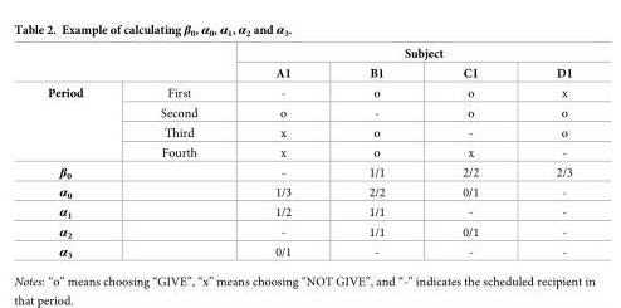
<table><thead><tr><td rowspan="2"></td><td rowspan="2"></td><td colspan="4">Subject</td></tr><tr><td>A1</td><td>B1</td><td>C1</td><td>D1</td></tr></thead><tbody><tr><td rowspan="4">Period</td><td>First</td><td>-</td><td>o</td><td>o</td><td>x</td></tr><tr><td>Second</td><td>o</td><td>-</td><td>o</td><td>o</td></tr><tr><td>Third</td><td>x</td><td>o</td><td>-</td><td>o</td></tr><tr><td>Fourth</td><td>x</td><td>o</td><td>x</td><td>-</td></tr><tr><td>β<sub>0</sub></td><td></td><td>-</td><td>1/1</td><td>2/2</td><td>2/3</td></tr><tr><td>α<sub>0</sub></td><td></td><td>1/3</td><td>2/2</td><td>0/1</td><td>-</td></tr><tr><td>α<sub>1</sub></td><td></td><td>1/2</td><td>1/1</td><td>-</td><td>-</td></tr><tr><td>α<sub>2</sub></td><td></td><td>-</td><td>1/1</td><td>0/1</td><td>-</td></tr><tr><td>α<sub>3</sub></td><td></td><td>0/1</td><td>-</td><td>-</td><td>-</td></tr></tbody></table>